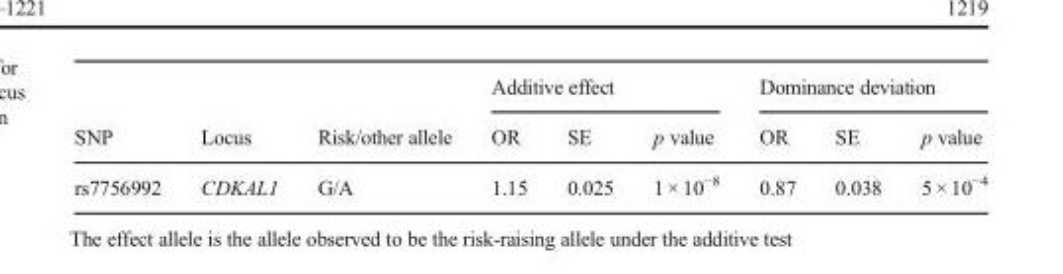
<table><thead><tr><td rowspan="2">SNP</td><td rowspan="2">Locus</td><td rowspan="2">Risk/other allele</td><td colspan="3">Additive effect</td><td colspan="3">Dominance deviation</td></tr><tr><td>OR</td><td>SE</td><td>p value</td><td>OR</td><td>SE</td><td>p value</td></tr></thead><tbody><tr><td>rs7756992</td><td>CDKAL1</td><td>G/A</td><td>1.15</td><td>0.025</td><td>1 × 10<sup>−8</sup></td><td>0.87</td><td>0.038</td><td>5 × 10<sup>−4</sup></td></tr></tbody></table>